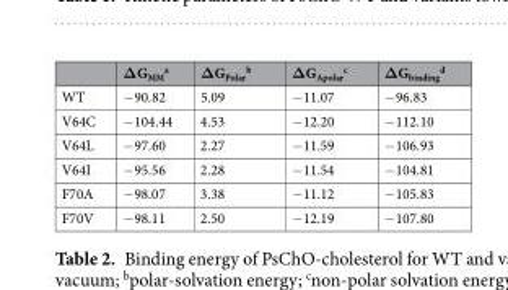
<table><thead><tr><td></td><td>ΔG<sub>MM</sub> <sup>a</sup></td><td>ΔG<sub>Polar</sub> <sup>b</sup></td><td>ΔG<sub>Apolar</sub> <sup>c</sup></td><td>ΔG<sub>binding</sub> <sup>d</sup></td></tr></thead><tbody><tr><td>WT</td><td>−90.82</td><td>5.09</td><td>−11.07</td><td>−96.83</td></tr><tr><td>V64C</td><td>−104.44</td><td>4.53</td><td>−12.20</td><td>−112.10</td></tr><tr><td>V64L</td><td>−97.60</td><td>2.27</td><td>−11.59</td><td>−106.93</td></tr><tr><td>V64I</td><td>−95.56</td><td>2.28</td><td>−11.54</td><td>−104.81</td></tr><tr><td>F70A</td><td>−98.07</td><td>3.38</td><td>−11.12</td><td>−105.83</td></tr><tr><td>F70V</td><td>−98.11</td><td>2.50</td><td>−12.19</td><td>−107.80</td></tr></tbody></table>